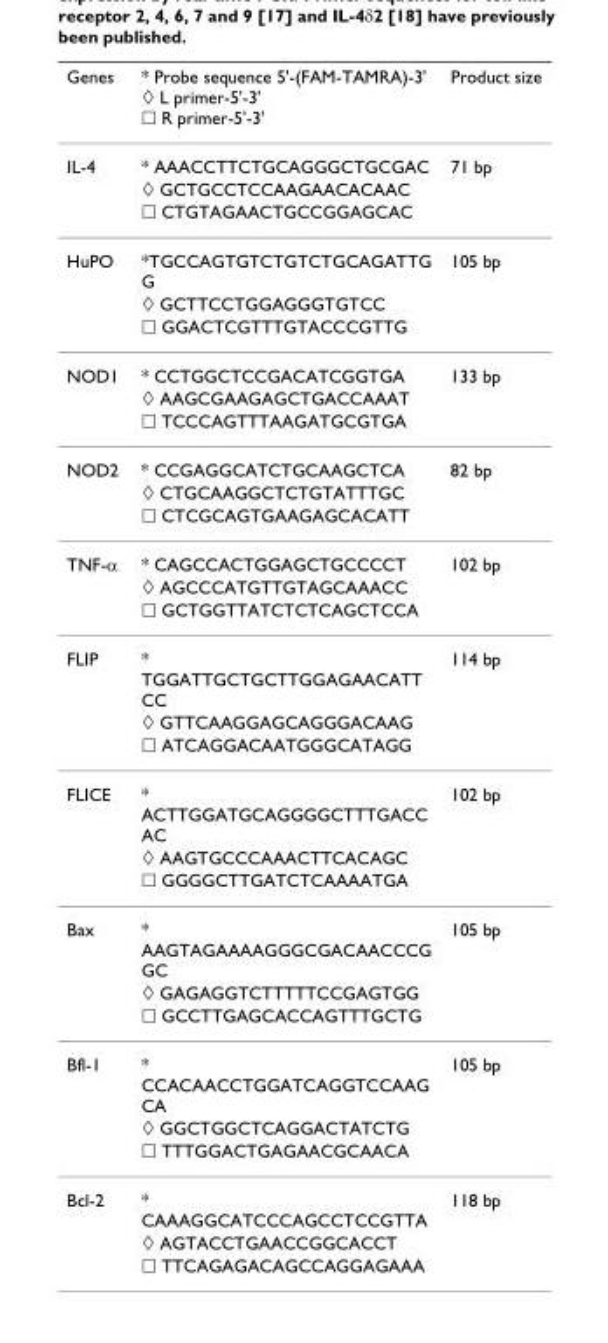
<table><thead><tr><td>Genes</td><td>* Probe sequence 5&#x27;-(FAM-TAMRA)-3&#x27; ◇ L primer-5&#x27;-3&#x27; □ R primer-5&#x27;-3&#x27;</td><td>Product size</td></tr></thead><tbody><tr><td rowspan="3">IL-4</td><td>* AAACCTTCTGCAGGGCTGCGAC</td><td>71 bp</td></tr><tr><td>◇ GCTGCCTCCAAGAACACAAC</td><td></td></tr><tr><td>□ CTGTAGAACTGCCGGAGCAC</td><td></td></tr><tr><td rowspan="3">HuPO</td><td>*TGCCAGTGTCTGTCTGCAGATTG G</td><td>105 bp</td></tr><tr><td>◇ GCTTCCTGGAGGGTGTCC</td><td></td></tr><tr><td>□ GGACTCGTTTGTACCCGTTG</td><td></td></tr><tr><td rowspan="3">NOD1</td><td>* CCTGGCTCCGACATCGGTGA</td><td>133 bp</td></tr><tr><td>◇ AAGCGAAGAGCTGACCAAAT</td><td></td></tr><tr><td>□ TCCCAGTTTAAGATGCGTGA</td><td></td></tr><tr><td rowspan="3">NOD2</td><td>* CCGAGGCATCTGCAAGCTCA</td><td>82 bp</td></tr><tr><td>◇ CTGCAAGGCTCTGTATTTGC</td><td></td></tr><tr><td>□ CTCGCAGTGAAGAGCACATT</td><td></td></tr><tr><td rowspan="3">TNF-α</td><td>* CAGCCACTGGAGCTGCCCCT</td><td>102 bp</td></tr><tr><td>◇ AGCCCATGTTGTAGCAAACC</td><td></td></tr><tr><td>□ GCTGGTTATCTCTCAGCTCCA</td><td></td></tr><tr><td rowspan="3">FLIP</td><td>* TGGATTGCTGCTTGGAGAACATT CC</td><td>114 bp</td></tr><tr><td>◇ GTTCAAGGAGCAGGGACAAG</td><td></td></tr><tr><td>□ ATCAGGACAATGGGCATAGG</td><td></td></tr><tr><td rowspan="3">FLICE</td><td>* ACTTGGATGCAGGGGCTTTGACC AC</td><td>102 bp</td></tr><tr><td>◇ AAGTGCCCAAACTTCACAGC</td><td></td></tr><tr><td>□ GGGGCTTGATCTCAAAATGA</td><td></td></tr><tr><td rowspan="3">Bax</td><td>* AAGTAGAAAAGGGCGACAACCCG GC</td><td>105 bp</td></tr><tr><td>◇ GAGAGGTCTTTTTCCGAGTGG</td><td></td></tr><tr><td>□ GCCTTGAGCACCAGTTTGCTG</td><td></td></tr><tr><td rowspan="3">Bfl-1</td><td>* CCACAACCTGGATCAGGTCCAAG CA</td><td>105 bp</td></tr><tr><td>◇ GGCTGGCTCAGGACTATCTG</td><td></td></tr><tr><td>□ TTTGGACTGAGAACGCAACA</td><td></td></tr><tr><td rowspan="3">Bcl-2</td><td>* CAAAGGCATCCCAGCCTCCGTTA</td><td>118 bp</td></tr><tr><td>◇ AGTACCTGAACCGGCACCT</td><td></td></tr><tr><td>□ TTCAGAGACAGCCAGGAGAAA</td><td></td></tr></tbody></table>